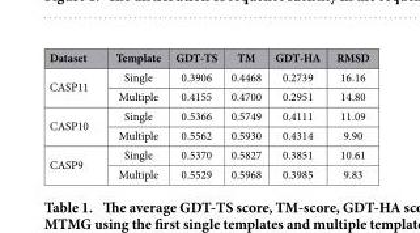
<table><thead><tr><td>Dataset</td><td>Template</td><td>GDT-TS</td><td>TM</td><td>GDT-HA</td><td>RMSD</td></tr></thead><tbody><tr><td rowspan="2">CASP11</td><td>Single</td><td>0.3906</td><td>0.4468</td><td>0.2739</td><td>16.16</td></tr><tr><td>Multiple</td><td>0.4155</td><td>0.4700</td><td>0.2951</td><td>14.80</td></tr><tr><td rowspan="2">CASP10</td><td>Single</td><td>0.5366</td><td>0.5749</td><td>0.4111</td><td>11.09</td></tr><tr><td>Multiple</td><td>0.5562</td><td>0.5930</td><td>0.4314</td><td>9.90</td></tr><tr><td rowspan="2">CASP9</td><td>Single</td><td>0.5370</td><td>0.5827</td><td>0.3851</td><td>10.61</td></tr><tr><td>Multiple</td><td>0.5529</td><td>0.5968</td><td>0.3985</td><td>9.83</td></tr></tbody></table>